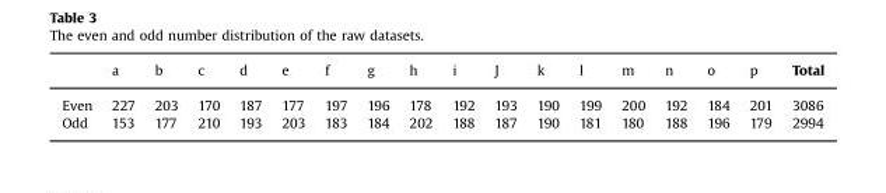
<table><thead><tr><td></td><td>a</td><td>b</td><td>c</td><td>d</td><td>e</td><td>f</td><td>g</td><td>h</td><td>i</td><td>J</td><td>k</td><td>l</td><td>m</td><td>n</td><td>o</td><td>p</td><td>Total</td></tr></thead><tbody><tr><td>Even</td><td>227</td><td>203</td><td>170</td><td>187</td><td>177</td><td>197</td><td>196</td><td>178</td><td>192</td><td>193</td><td>190</td><td>199</td><td>200</td><td>192</td><td>184</td><td>201</td><td>3086</td></tr><tr><td>Odd</td><td>153</td><td>177</td><td>210</td><td>193</td><td>203</td><td>183</td><td>184</td><td>202</td><td>188</td><td>187</td><td>190</td><td>181</td><td>180</td><td>188</td><td>196</td><td>179</td><td>2994</td></tr></tbody></table>